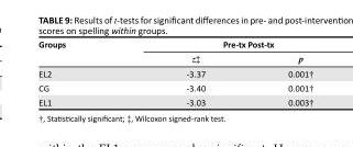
<table><thead><tr><td rowspan="2">Groups</td><td colspan="2">Pre-tx Post-tx</td></tr><tr><td>z‡</td><td>p</td></tr></thead><tbody><tr><td>EL2</td><td>-3.37</td><td>0.001†</td></tr><tr><td>CG</td><td>-3.40</td><td>0.001†</td></tr><tr><td>EL1</td><td>-3.03</td><td>0.003†</td></tr></tbody></table>